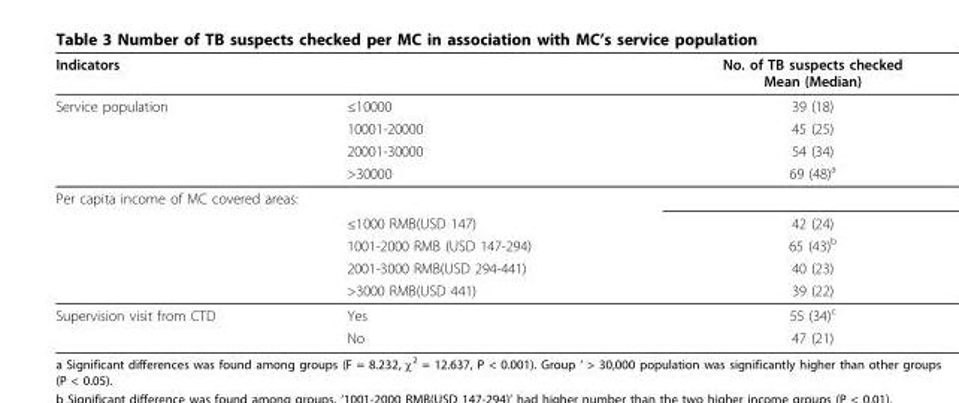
<table><thead><tr><td>Indicators</td><td></td><td>No. of TB suspects checked Mean (Median)</td></tr></thead><tbody><tr><td rowspan="4">Service population</td><td>≤10000</td><td>39 (18)</td></tr><tr><td>10001-20000</td><td>45 (25)</td></tr><tr><td>20001-30000</td><td>54 (34)</td></tr><tr><td>&gt;30000</td><td>69 (48)<sup>a</sup></td></tr><tr><td colspan="3">Per capita income of MC covered areas:</td></tr><tr><td></td><td>≤1000 RMB(USD 147)</td><td>42 (24)</td></tr><tr><td></td><td>1001-2000 RMB (USD 147-294)</td><td>65 (43)<sup>b</sup></td></tr><tr><td></td><td>2001-3000 RMB(USD 294-441)</td><td>40 (23)</td></tr><tr><td></td><td>&gt;3000 RMB(USD 441)</td><td>39 (22)</td></tr><tr><td rowspan="2">Supervision visit from CTD</td><td>Yes</td><td>55 (34)<sup>c</sup></td></tr><tr><td>No</td><td>47 (21)</td></tr></tbody></table>